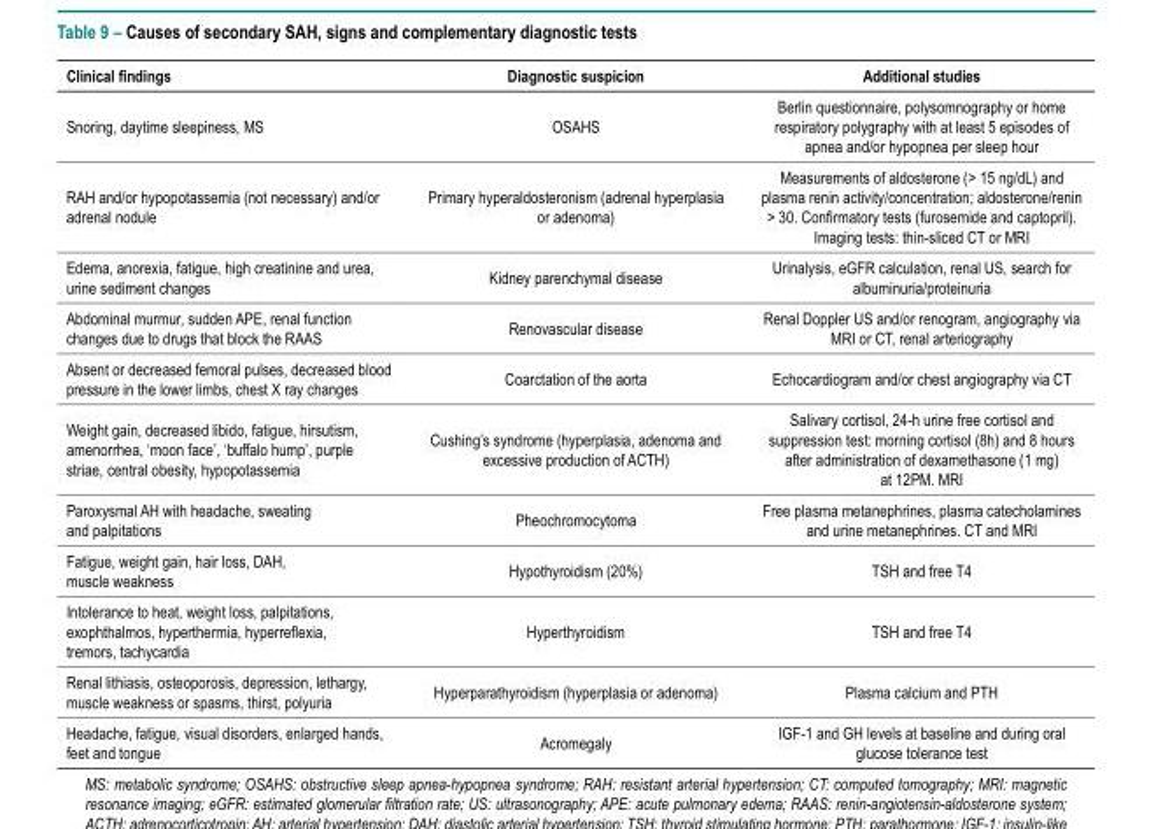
<table><thead><tr><td>Clinical findings</td><td>Diagnostic suspicion</td><td>Additional studies</td></tr></thead><tbody><tr><td>Snoring, daytime sleepiness, MS</td><td>OSAHS</td><td>Berlin questionnaire, polysomnography or home respiratory polygraphy with at least 5 episodes of apnea and/or hypopnea per sleep hour</td></tr><tr><td>RAH and/or hypopotassemia (not necessary) and/or adrenal nodule</td><td>Primary hyperaldosteronism (adrenal hyperplasia or adenoma)</td><td>Measurements of aldosterone (&gt; 15 ng/dL) and plasma renin activity/concentration; aldosterone/renin &gt; 30. Confirmatory tests (furosemide and captopril). Imaging tests: thin-sliced CT or MRI</td></tr><tr><td>Edema, anorexia, fatigue, high creatinine and urea, urine sediment changes</td><td>Kidney parenchymal disease</td><td>Urinalysis, eGFR calculation, renal US, search for albuminuria/proteinuria</td></tr><tr><td>Abdominal murmur, sudden APE, renal function changes due to drugs that block the RAAS</td><td>Renovascular disease</td><td>Renal Doppler US and/or renogram, angiography via MRI or CT, renal arteriography</td></tr><tr><td>Absent or decreased femoral pulses, decreased blood pressure in the lower limbs, chest X ray changes</td><td>Coarctation of the aorta</td><td>Echocardiogram and/or chest angiography via CT</td></tr><tr><td>Weight gain, decreased libido, fatigue, hirsutism, amenorrhea, ‘moon face’, ‘buffalo hump’, purple striae, central obesity, hypopotassemia</td><td>Cushing’s syndrome (hyperplasia, adenoma and excessive production of ACTH)</td><td>Salivary cortisol, 24-h urine free cortisol and suppression test: morning cortisol (8h) and 8 hours after administration of dexamethasone (1 mg) at 12PM. MRI</td></tr><tr><td>Paroxysmal AH with headache, sweating and palpitations</td><td>Pheochromocytoma</td><td>Free plasma metanephrines, plasma catecholamines and urine metanephrines. CT and MRI</td></tr><tr><td>Fatigue, weight gain, hair loss, DAH, muscle weakness</td><td>Hypothyroidism (20%)</td><td>TSH and free T4</td></tr><tr><td>Intolerance to heat, weight loss, palpitations, exophthalmos, hyperthermia, hyperreflexia, tremors, tachycardia</td><td>Hyperthyroidism</td><td>TSH and free T4</td></tr><tr><td>Renal lithiasis, osteoporosis, depression, lethargy, muscle weakness or spasms, thirst, polyuria</td><td>Hyperparathyroidism (hyperplasia or adenoma)</td><td>Plasma calcium and PTH</td></tr><tr><td>Headache, fatigue, visual disorders, enlarged hands, feet and tongue</td><td>Acromegaly</td><td>IGF-1 and GH levels at baseline and during oral glucose tolerance test</td></tr></tbody></table>